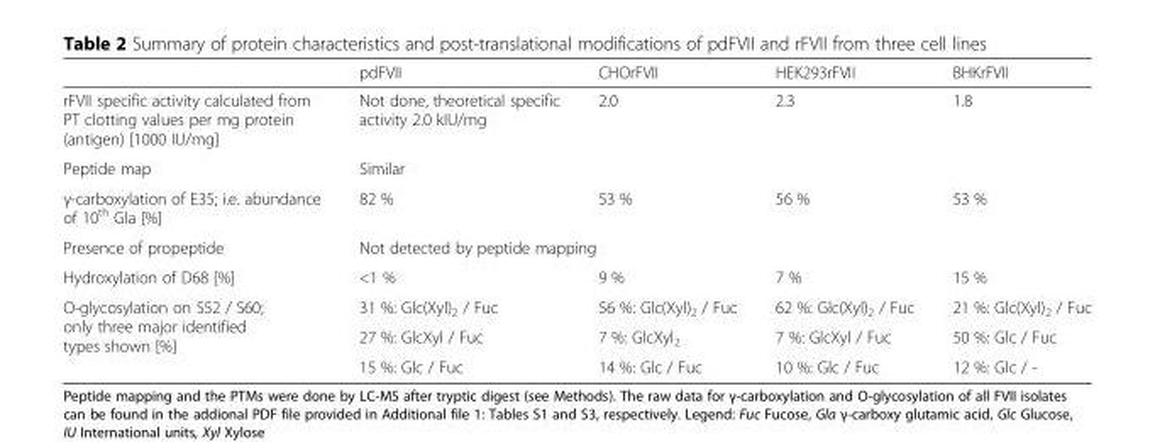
<table><thead><tr><td></td><td>pdFVII</td><td>CHOrFVII</td><td>HEK293rFVII</td><td>BHKrFVII</td></tr></thead><tbody><tr><td>rFVII specific activity calculated from PT clotting values per mg protein (antigen) [1000 IU/mg]</td><td>Not done, theoretical specific activity 2.0 kIU/mg</td><td>2.0</td><td>2.3</td><td>1.8</td></tr><tr><td>Peptide map</td><td colspan="4">Similar</td></tr><tr><td>γ-carboxylation of E35; i.e. abundance of 10<sup>th</sup> Gla [%]</td><td>82 %</td><td>53 %</td><td>56 %</td><td>53 %</td></tr><tr><td>Presence of propeptide</td><td colspan="4">Not detected by peptide mapping</td></tr><tr><td>Hydroxylation of D68 [%]</td><td>&lt;1 %</td><td>9 %</td><td>7 %</td><td>15 %</td></tr><tr><td rowspan="3">O-glycosylation on S52 / S60; only three major identified types shown [%]</td><td>31 %: Glc(Xyl)<sub>2</sub> / Fuc</td><td>56 %: Glc(Xyl)<sub>2</sub> / Fuc</td><td>62 %: Glc(Xyl)<sub>2</sub> / Fuc</td><td>21 %: Glc(Xyl)<sub>2</sub> / Fuc</td></tr><tr><td>27 %: GlcXyl / Fuc</td><td>7 %: GlcXyl<sub>2</sub></td><td>7 %: GlcXyl / Fuc</td><td>50 %: Glc / Fuc</td></tr><tr><td>15 %: Glc / Fuc</td><td>14 %: Glc / Fuc</td><td>10 %: Glc / Fuc</td><td>12 %: Glc / -</td></tr></tbody></table>